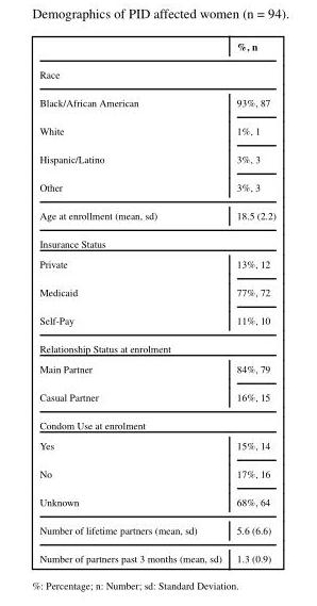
<table><thead><tr><td></td><td>%, n</td></tr></thead><tbody><tr><td colspan="2">Race</td></tr><tr><td>Black/African American</td><td>93%, 87</td></tr><tr><td>White</td><td>1%, 1</td></tr><tr><td>Hispanic/Latino</td><td>3%, 3</td></tr><tr><td>Other</td><td>3%, 3</td></tr><tr><td>Age at enrollment (mean, sd)</td><td>18.5 (2.2)</td></tr><tr><td colspan="2">Insurance Status</td></tr><tr><td>Private</td><td>13%, 12</td></tr><tr><td>Medicaid</td><td>77%, 72</td></tr><tr><td>Self-Pay</td><td>11%, 10</td></tr><tr><td colspan="2">Relationship Status at enrolment</td></tr><tr><td>Main Partner</td><td>84%, 79</td></tr><tr><td>Casual Partner</td><td>16%, 15</td></tr><tr><td colspan="2">Condom Use at enrolment</td></tr><tr><td>Yes</td><td>15%, 14</td></tr><tr><td>No</td><td>17%, 16</td></tr><tr><td>Unknown</td><td>68%, 64</td></tr><tr><td>Number of lifetime partners (mean, sd)</td><td>5.6 (6.6)</td></tr><tr><td>Number of partners past 3 months (mean, sd)</td><td>1.3 (0.9)</td></tr></tbody></table>